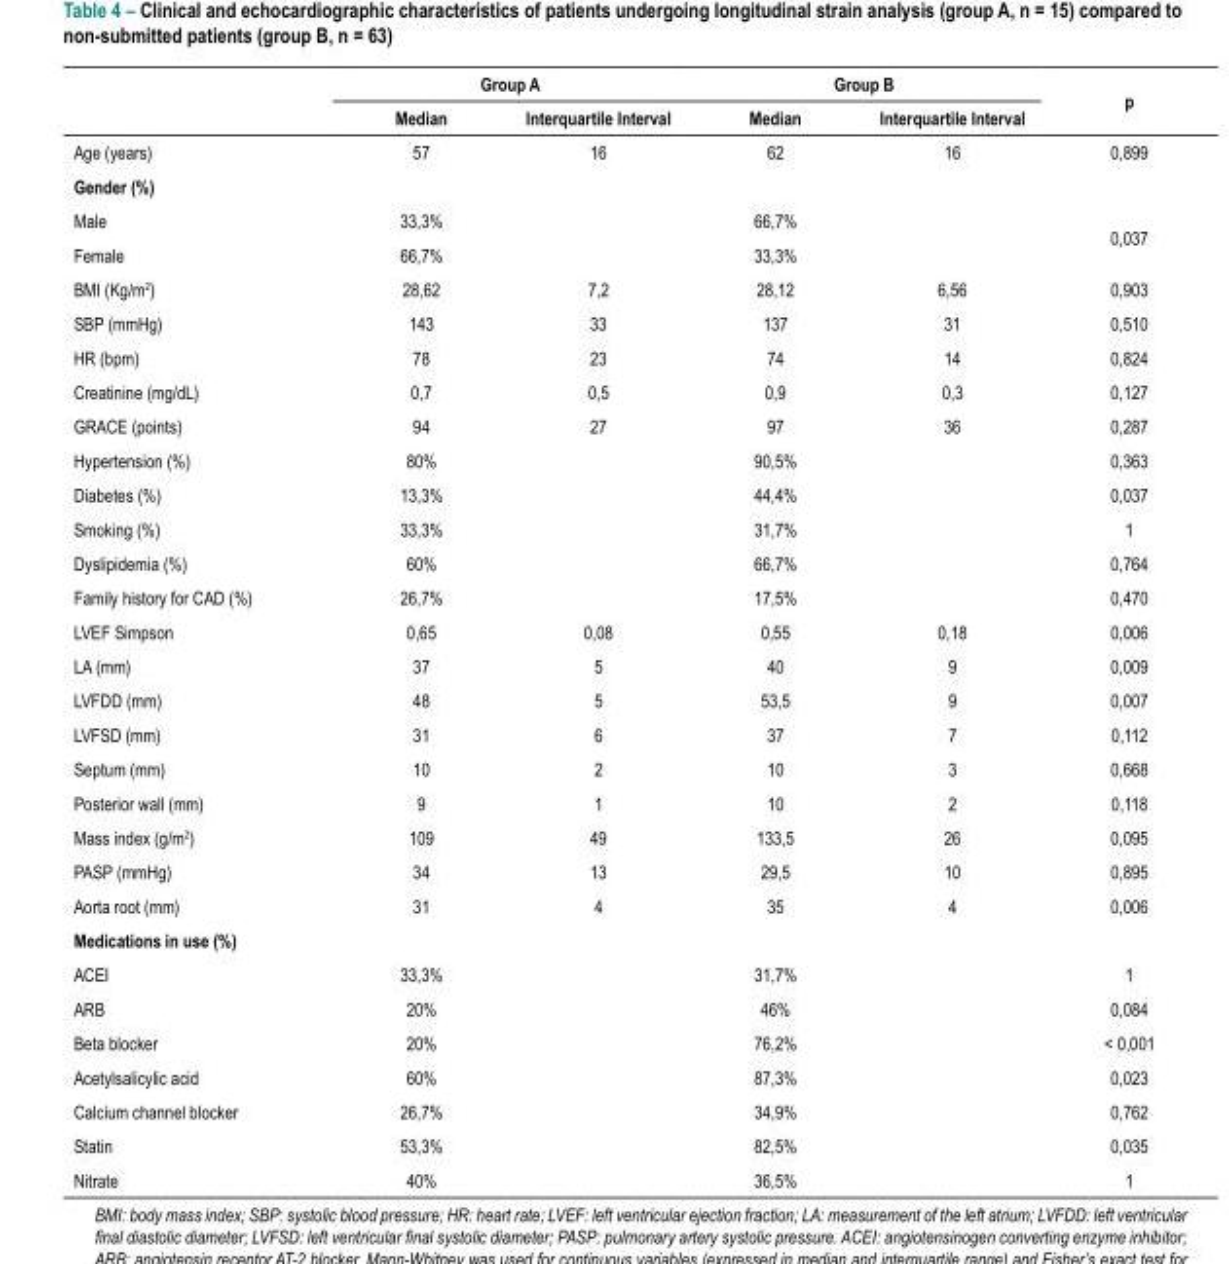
<table><thead><tr><td rowspan="2"></td><td colspan="2">Group A</td><td colspan="2">Group B</td><td rowspan="2">p</td></tr><tr><td>Median</td><td>Interquartile Interval</td><td>Median</td><td>Interquartile Interval</td></tr></thead><tbody><tr><td>Age (years)</td><td>57</td><td>16</td><td>62</td><td>16</td><td>0,899</td></tr><tr><td colspan="6">Gender (%)</td></tr><tr><td>Male</td><td>33,3%</td><td></td><td>66,7%</td><td></td><td rowspan="2">0,037</td></tr><tr><td>Female</td><td>66,7%</td><td></td><td>33,3%</td><td></td></tr><tr><td>BMI (Kg/m<sup>2</sup>)</td><td>28,62</td><td>7,2</td><td>28,12</td><td>6,56</td><td>0,903</td></tr><tr><td>SBP (mmHg)</td><td>143</td><td>33</td><td>137</td><td>31</td><td>0,510</td></tr><tr><td>HR (bpm)</td><td>78</td><td>23</td><td>74</td><td>14</td><td>0,824</td></tr><tr><td>Creatinine (mg/dL)</td><td>0,7</td><td>0,5</td><td>0,9</td><td>0,3</td><td>0,127</td></tr><tr><td>GRACE (points)</td><td>94</td><td>27</td><td>97</td><td>36</td><td>0,287</td></tr><tr><td>Hypertension (%)</td><td>80%</td><td></td><td>90,5%</td><td></td><td>0,363</td></tr><tr><td>Diabetes (%)</td><td>13,3%</td><td></td><td>44,4%</td><td></td><td>0,037</td></tr><tr><td>Smoking (%)</td><td>33,3%</td><td></td><td>31,7%</td><td></td><td>1</td></tr><tr><td>Dyslipidemia (%)</td><td>60%</td><td></td><td>66,7%</td><td></td><td>0,764</td></tr><tr><td>Family history for CAD (%)</td><td>26,7%</td><td></td><td>17,5%</td><td></td><td>0,470</td></tr><tr><td>LVEF Simpson</td><td>0,65</td><td>0,08</td><td>0,55</td><td>0,18</td><td>0,006</td></tr><tr><td>LA (mm)</td><td>37</td><td>5</td><td>40</td><td>9</td><td>0,009</td></tr><tr><td>LVFDD (mm)</td><td>48</td><td>5</td><td>53,5</td><td>9</td><td>0,007</td></tr><tr><td>LVFSD (mm)</td><td>31</td><td>6</td><td>37</td><td>7</td><td>0,112</td></tr><tr><td>Septum (mm)</td><td>10</td><td>2</td><td>10</td><td>3</td><td>0,668</td></tr><tr><td>Posterior wall (mm)</td><td>9</td><td>1</td><td>10</td><td>2</td><td>0,118</td></tr><tr><td>Mass index (g/m<sup>2</sup>)</td><td>109</td><td>49</td><td>133,5</td><td>26</td><td>0,095</td></tr><tr><td>PASP (mmHg)</td><td>34</td><td>13</td><td>29,5</td><td>10</td><td>0,895</td></tr><tr><td>Aorta root (mm)</td><td>31</td><td>4</td><td>35</td><td>4</td><td>0,006</td></tr><tr><td colspan="6">Medications in use (%)</td></tr><tr><td>ACEI</td><td>33,3%</td><td></td><td>31,7%</td><td></td><td>1</td></tr><tr><td>ARB</td><td>20%</td><td></td><td>46%</td><td></td><td>0,084</td></tr><tr><td>Beta blocker</td><td>20%</td><td></td><td>76,2%</td><td></td><td>&lt; 0,001</td></tr><tr><td>Acetylsalicylic acid</td><td>60%</td><td></td><td>87,3%</td><td></td><td>0,023</td></tr><tr><td>Calcium channel blocker</td><td>26,7%</td><td></td><td>34,9%</td><td></td><td>0,762</td></tr><tr><td>Statin</td><td>53,3%</td><td></td><td>82,5%</td><td></td><td>0,035</td></tr><tr><td>Nitrate</td><td>40%</td><td></td><td>36,5%</td><td></td><td>1</td></tr></tbody></table>